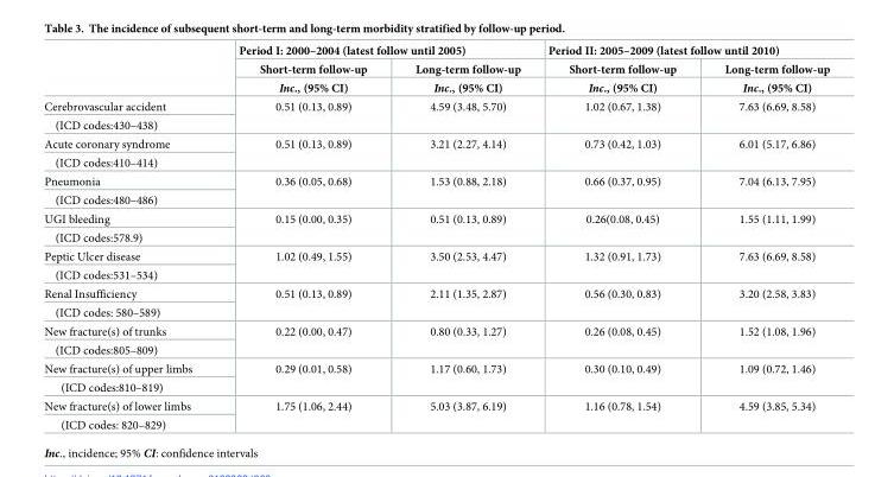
<table><thead><tr><td rowspan="3"></td><td colspan="2">Period I: 2000–2004 (latest follow until 2005)</td><td colspan="2">Period II: 2005–2009 (latest follow until 2010)</td></tr><tr><td rowspan="2">Short-term follow-up Inc., (95% CI)</td><td rowspan="2">Long-term follow-up Inc., (95% CI)</td><td rowspan="2">Short-term follow-up Inc., (95% CI)</td><td rowspan="2">Long-term follow-up Inc., (95% CI)</td></tr><tr></tr></thead><tbody><tr><td>Cerebrovascular accident</td><td rowspan="2">0.51 (0.13, 0.89)</td><td rowspan="2">4.59 (3.48, 5.70)</td><td rowspan="2">1.02 (0.67, 1.38)</td><td rowspan="2">7.63 (6.69, 8.58)</td></tr><tr><td>(ICD codes:430–438)</td></tr><tr><td>Acute coronary syndrome</td><td rowspan="2">0.51 (0.13, 0.89)</td><td rowspan="2">3.21 (2.27, 4.14)</td><td rowspan="2">0.73 (0.42, 1.03)</td><td rowspan="2">6.01 (5.17, 6.86)</td></tr><tr><td>(ICD codes:410–414)</td></tr><tr><td>Pneumonia</td><td rowspan="2">0.36 (0.05, 0.68)</td><td rowspan="2">1.53 (0.88, 2.18)</td><td rowspan="2">0.66 (0.37, 0.95)</td><td rowspan="2">7.04 (6.13, 7.95)</td></tr><tr><td>(ICD codes:480–486)</td></tr><tr><td>UGI bleeding</td><td rowspan="2">0.15 (0.00, 0.35)</td><td rowspan="2">0.51 (0.13, 0.89)</td><td rowspan="2">0.26(0.08, 0.45)</td><td rowspan="2">1.55 (1.11, 1.99)</td></tr><tr><td>(ICD codes:578.9)</td></tr><tr><td>Peptic Ulcer disease</td><td rowspan="2">1.02 (0.49, 1.55)</td><td rowspan="2">3.50 (2.53, 4.47)</td><td rowspan="2">1.32 (0.91, 1.73)</td><td rowspan="2">7.63 (6.69, 8.58)</td></tr><tr><td>(ICD codes:531–534)</td></tr><tr><td>Renal Insufficiency</td><td rowspan="2">0.51 (0.13, 0.89)</td><td rowspan="2">2.11 (1.35, 2.87)</td><td rowspan="2">0.56 (0.30, 0.83)</td><td rowspan="2">3.20 (2.58, 3.83)</td></tr><tr><td>(ICD codes: 580–589)</td></tr><tr><td>New fracture(s) of trunks</td><td rowspan="2">0.22 (0.00, 0.47)</td><td rowspan="2">0.80 (0.33, 1.27)</td><td rowspan="2">0.26 (0.08, 0.45)</td><td rowspan="2">1.52 (1.08, 1.96)</td></tr><tr><td>(ICD codes:805–809)</td></tr><tr><td>New fracture(s) of upper limbs</td><td rowspan="2">0.29 (0.01, 0.58)</td><td rowspan="2">1.17 (0.60, 1.73)</td><td rowspan="2">0.30 (0.10, 0.49)</td><td rowspan="2">1.09 (0.72, 1.46)</td></tr><tr><td>(ICD codes:810–819)</td></tr><tr><td>New fracture(s) of lower limbs</td><td rowspan="2">1.75 (1.06, 2.44)</td><td rowspan="2">5.03 (3.87, 6.19)</td><td rowspan="2">1.16 (0.78, 1.54)</td><td rowspan="2">4.59 (3.85, 5.34)</td></tr><tr><td>(ICD codes: 820–829)</td></tr></tbody></table>